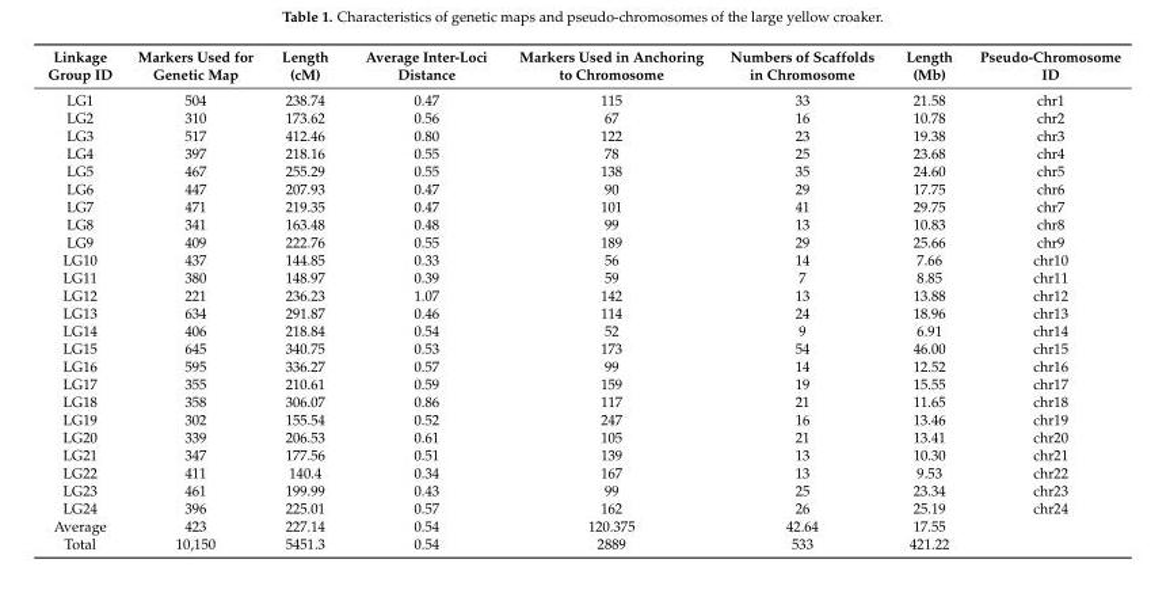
<table><thead><tr><td>Linkage Group ID</td><td>Markers Used for Genetic Map</td><td>Length (cM)</td><td>Average Inter-Loci Distance</td><td>Markers Used in Anchoring to Chromosome</td><td>Numbers of Scaffolds in Chromosome</td><td>Length (Mb)</td><td>Pseudo-Chromosome ID</td></tr></thead><tbody><tr><td>LG1</td><td>504</td><td>238.74</td><td>0.47</td><td>115</td><td>33</td><td>21.58</td><td>chr1</td></tr><tr><td>LG2</td><td>310</td><td>173.62</td><td>0.56</td><td>67</td><td>16</td><td>10.78</td><td>chr2</td></tr><tr><td>LG3</td><td>517</td><td>412.46</td><td>0.80</td><td>122</td><td>23</td><td>19.38</td><td>chr3</td></tr><tr><td>LG4</td><td>397</td><td>218.16</td><td>0.55</td><td>78</td><td>25</td><td>23.68</td><td>chr4</td></tr><tr><td>LG5</td><td>467</td><td>255.29</td><td>0.55</td><td>138</td><td>35</td><td>24.60</td><td>chr5</td></tr><tr><td>LG6</td><td>447</td><td>207.93</td><td>0.47</td><td>90</td><td>29</td><td>17.75</td><td>chr6</td></tr><tr><td>LG7</td><td>471</td><td>219.35</td><td>0.47</td><td>101</td><td>41</td><td>29.75</td><td>chr7</td></tr><tr><td>LG8</td><td>341</td><td>163.48</td><td>0.48</td><td>99</td><td>13</td><td>10.83</td><td>chr8</td></tr><tr><td>LG9</td><td>409</td><td>222.76</td><td>0.55</td><td>189</td><td>29</td><td>25.66</td><td>chr9</td></tr><tr><td>LG10</td><td>437</td><td>144.85</td><td>0.33</td><td>56</td><td>14</td><td>7.66</td><td>chr10</td></tr><tr><td>LG11</td><td>380</td><td>148.97</td><td>0.39</td><td>59</td><td>7</td><td>8.85</td><td>chr11</td></tr><tr><td>LG12</td><td>221</td><td>236.23</td><td>1.07</td><td>142</td><td>13</td><td>13.88</td><td>chr12</td></tr><tr><td>LG13</td><td>634</td><td>291.87</td><td>0.46</td><td>114</td><td>24</td><td>18.96</td><td>chr13</td></tr><tr><td>LG14</td><td>406</td><td>218.84</td><td>0.54</td><td>52</td><td>9</td><td>6.91</td><td>chr14</td></tr><tr><td>LG15</td><td>645</td><td>340.75</td><td>0.53</td><td>173</td><td>54</td><td>46.00</td><td>chr15</td></tr><tr><td>LG16</td><td>595</td><td>336.27</td><td>0.57</td><td>99</td><td>14</td><td>12.52</td><td>chr16</td></tr><tr><td>LG17</td><td>355</td><td>210.61</td><td>0.59</td><td>159</td><td>19</td><td>15.55</td><td>chr17</td></tr><tr><td>LG18</td><td>358</td><td>306.07</td><td>0.86</td><td>117</td><td>21</td><td>11.65</td><td>chr18</td></tr><tr><td>LG19</td><td>302</td><td>155.54</td><td>0.52</td><td>247</td><td>16</td><td>13.46</td><td>chr19</td></tr><tr><td>LG20</td><td>339</td><td>206.53</td><td>0.61</td><td>105</td><td>21</td><td>13.41</td><td>chr20</td></tr><tr><td>LG21</td><td>347</td><td>177.56</td><td>0.51</td><td>139</td><td>13</td><td>10.30</td><td>chr21</td></tr><tr><td>LG22</td><td>411</td><td>140.4</td><td>0.34</td><td>167</td><td>13</td><td>9.53</td><td>chr22</td></tr><tr><td>LG23</td><td>461</td><td>199.99</td><td>0.43</td><td>99</td><td>25</td><td>23.34</td><td>chr23</td></tr><tr><td>LG24</td><td>396</td><td>225.01</td><td>0.57</td><td>162</td><td>26</td><td>25.19</td><td>chr24</td></tr><tr><td>Average</td><td>423</td><td>227.14</td><td>0.54</td><td>120.375</td><td>42.64</td><td>17.55</td><td></td></tr><tr><td>Total</td><td>10,150</td><td>5451.3</td><td>0.54</td><td>2889</td><td>533</td><td>421.22</td><td></td></tr></tbody></table>